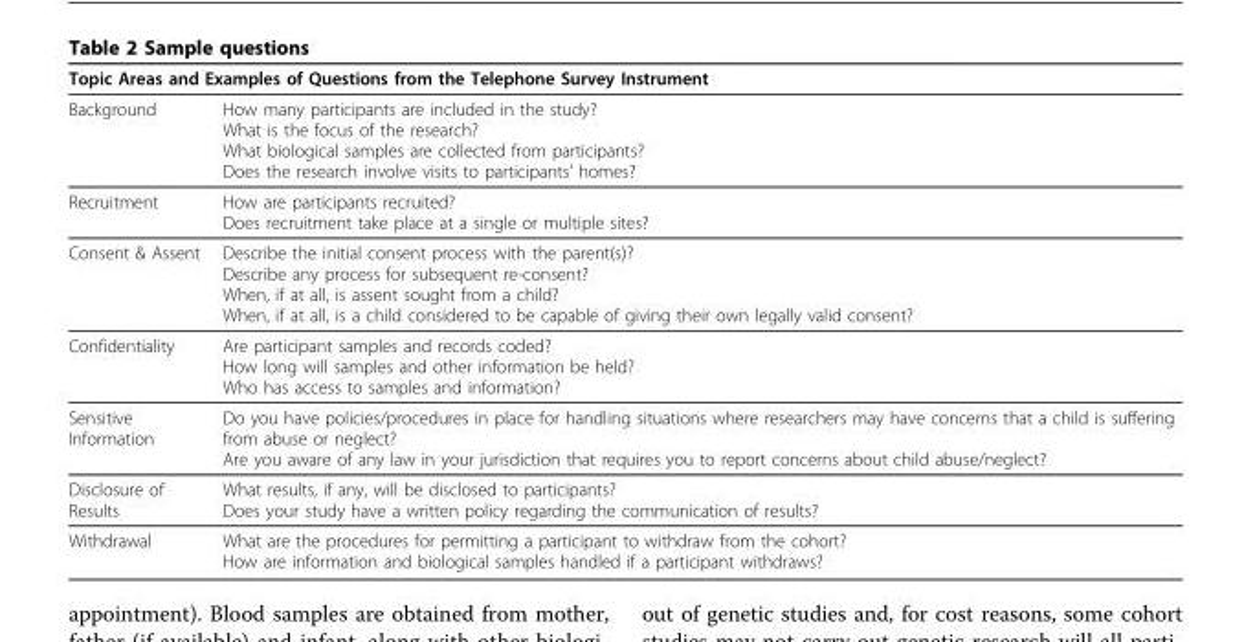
<table><thead><tr><td colspan="2">Topic Areas and Examples of Questions from the Telephone Survey Instrument</td></tr><tr><td>Background</td><td>How many participants are included in the study? What is the focus of the research? What biological samples are collected from participants? Does the research involve visits to participants’ homes?</td></tr></thead><tbody><tr><td>Recruitment</td><td>How are participants recruited? Does recruitment take place at a single or multiple sites?</td></tr><tr><td>Consent &amp; Assent</td><td>Describe the initial consent process with the parent(s)? Describe any process for subsequent re-consent? When, if at all, is assent sought from a child? When, if at all, is a child considered to be capable of giving their own legally valid consent?</td></tr><tr><td>Confidentiality</td><td>Are participant samples and records coded? How long will samples and other information be held? Who has access to samples and information?</td></tr><tr><td>Sensitive Information</td><td>Do you have policies/procedures in place for handling situations where researchers may have concerns that a child is suffering from abuse or neglect? Are you aware of any law in your jurisdiction that requires you to report concerns about child abuse/neglect?</td></tr><tr><td>Disclosure of Results</td><td>What results, if any, will be disclosed to participants? Does your study have a written policy regarding the communication of results?</td></tr><tr><td>Withdrawal</td><td>What are the procedures for permitting a participant to withdraw from the cohort? How are information and biological samples handled if a participant withdraws?</td></tr></tbody></table>